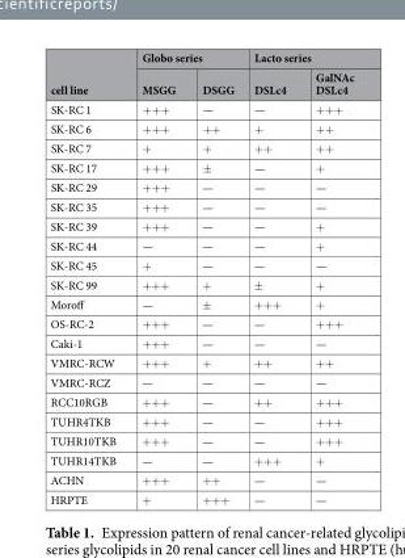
<table><thead><tr><td rowspan="2">cell line</td><td colspan="2">Globo series</td><td colspan="2">Lacto series</td></tr><tr><td>MSGG</td><td>DSGG</td><td>DSLc4</td><td>GalNAc DSLc4</td></tr></thead><tbody><tr><td>SK-RC 1</td><td>+++</td><td>—</td><td>—</td><td>+++</td></tr><tr><td>SK-RC 6</td><td>+++</td><td>++</td><td>+</td><td>++</td></tr><tr><td>SK-RC 7</td><td>+</td><td>+</td><td>++</td><td>++</td></tr><tr><td>SK-RC 17</td><td>+++</td><td>±</td><td>—</td><td>+</td></tr><tr><td>SK-RC 29</td><td>+++</td><td>—</td><td>—</td><td>—</td></tr><tr><td>SK-RC 35</td><td>+++</td><td>—</td><td>—</td><td>—</td></tr><tr><td>SK-RC 39</td><td>+++</td><td>—</td><td>—</td><td>+</td></tr><tr><td>SK-RC 44</td><td>—</td><td>—</td><td>—</td><td>+</td></tr><tr><td>SK-RC 45</td><td>+</td><td>—</td><td>—</td><td>—</td></tr><tr><td>SK-RC 99</td><td>+++</td><td>+</td><td>±</td><td>+</td></tr><tr><td>Moroff</td><td>—</td><td>±</td><td>+++</td><td>+</td></tr><tr><td>OS-RC-2</td><td>+++</td><td>—</td><td>—</td><td>+++</td></tr><tr><td>Caki-1</td><td>+++</td><td>—</td><td>—</td><td>—</td></tr><tr><td>VMRC-RCW</td><td>+++</td><td>+</td><td>++</td><td>++</td></tr><tr><td>VMRC-RCZ</td><td>—</td><td>—</td><td>—</td><td>—</td></tr><tr><td>RCC10RGB</td><td>+++</td><td>—</td><td>++</td><td>+++</td></tr><tr><td>TUHR4TKB</td><td>+++</td><td>—</td><td>—</td><td>+++</td></tr><tr><td>TUHR10TKB</td><td>+++</td><td>—</td><td>—</td><td>+++</td></tr><tr><td>TUHR14TKB</td><td>—</td><td>—</td><td>+++</td><td>+</td></tr><tr><td>ACHN</td><td>+++</td><td>++</td><td>—</td><td>—</td></tr><tr><td>HRPTE</td><td>+</td><td>+++</td><td>—</td><td>—</td></tr></tbody></table>